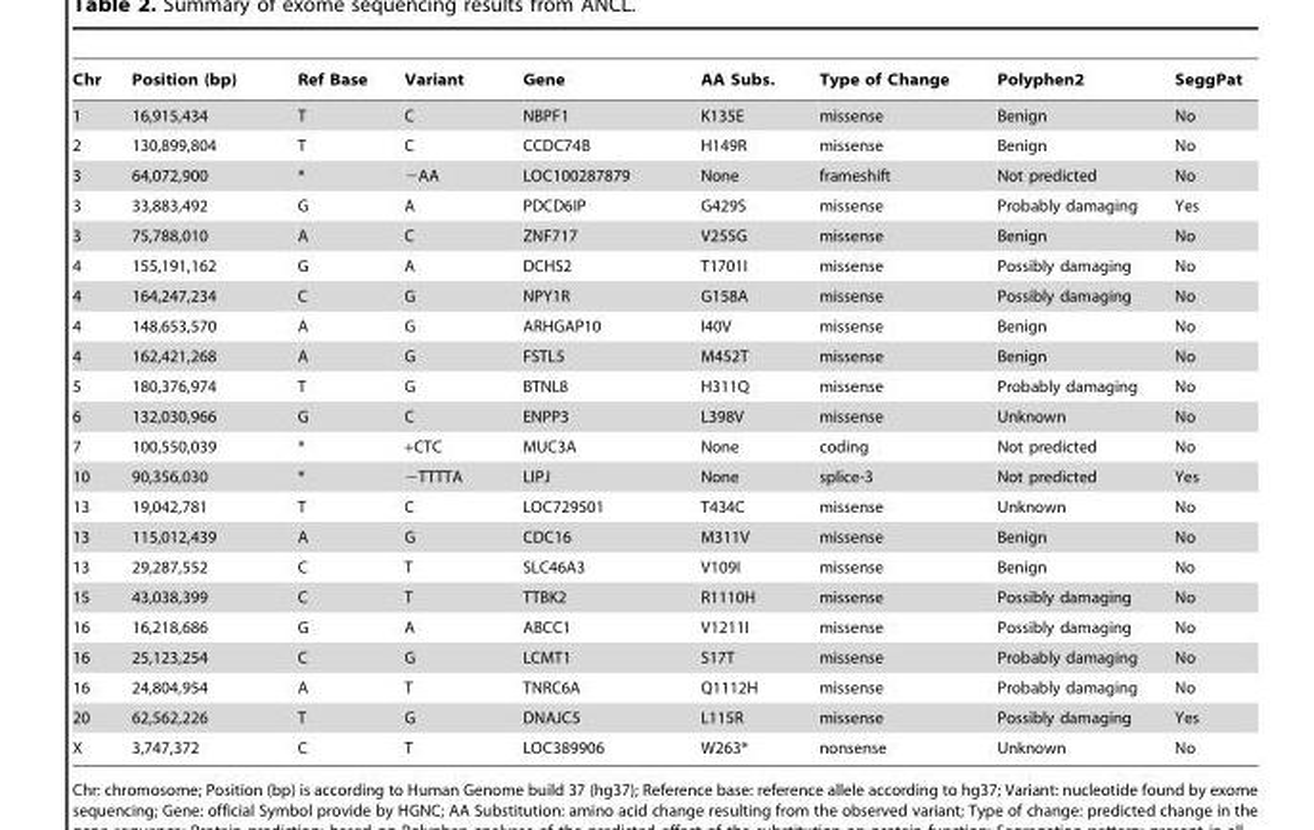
<table><thead><tr><td>Chr</td><td>Position (bp)</td><td>Ref Base</td><td>Variant</td><td>Gene</td><td>AA Subs.</td><td>Type of Change</td><td>Polyphen2</td><td>SeggPat</td></tr></thead><tbody><tr><td>1</td><td>16,915,434</td><td>T</td><td>C</td><td>NBPF1</td><td>K135E</td><td>missense</td><td>Benign</td><td>No</td></tr><tr><td>2</td><td>130,899,804</td><td>T</td><td>C</td><td>CCDC74B</td><td>H149R</td><td>missense</td><td>Benign</td><td>No</td></tr><tr><td>3</td><td>64,072,900</td><td>*</td><td>−AA</td><td>LOC100287879</td><td>None</td><td>frameshift</td><td>Not predicted</td><td>No</td></tr><tr><td>3</td><td>33,883,492</td><td>G</td><td>A</td><td>PDCD6IP</td><td>G429S</td><td>missense</td><td>Probably damaging</td><td>Yes</td></tr><tr><td>3</td><td>75,788,010</td><td>A</td><td>C</td><td>ZNF717</td><td>V255G</td><td>missense</td><td>Benign</td><td>No</td></tr><tr><td>4</td><td>155,191,162</td><td>G</td><td>A</td><td>DCHS2</td><td>T1701I</td><td>missense</td><td>Possibly damaging</td><td>No</td></tr><tr><td>4</td><td>164,247,234</td><td>C</td><td>G</td><td>NPY1R</td><td>G158A</td><td>missense</td><td>Possibly damaging</td><td>No</td></tr><tr><td>4</td><td>148,653,570</td><td>A</td><td>G</td><td>ARHGAP10</td><td>I40V</td><td>missense</td><td>Benign</td><td>No</td></tr><tr><td>4</td><td>162,421,268</td><td>A</td><td>G</td><td>FSTL5</td><td>M452T</td><td>missense</td><td>Benign</td><td>No</td></tr><tr><td>5</td><td>180,376,974</td><td>T</td><td>G</td><td>BTNL8</td><td>H311Q</td><td>missense</td><td>Probably damaging</td><td>No</td></tr><tr><td>6</td><td>132,030,966</td><td>G</td><td>C</td><td>ENPP3</td><td>L398V</td><td>missense</td><td>Unknown</td><td>No</td></tr><tr><td>7</td><td>100,550,039</td><td>*</td><td>+CTC</td><td>MUC3A</td><td>None</td><td>coding</td><td>Not predicted</td><td>No</td></tr><tr><td>10</td><td>90,356,030</td><td>*</td><td>−TTTTA</td><td>LIPJ</td><td>None</td><td>splice-3</td><td>Not predicted</td><td>Yes</td></tr><tr><td>13</td><td>19,042,781</td><td>T</td><td>C</td><td>LOC729501</td><td>T434C</td><td>missense</td><td>Unknown</td><td>No</td></tr><tr><td>13</td><td>115,012,439</td><td>A</td><td>G</td><td>CDC16</td><td>M311V</td><td>missense</td><td>Benign</td><td>No</td></tr><tr><td>13</td><td>29,287,552</td><td>C</td><td>T</td><td>SLC46A3</td><td>V109I</td><td>missense</td><td>Benign</td><td>No</td></tr><tr><td>15</td><td>43,038,399</td><td>C</td><td>T</td><td>TTBK2</td><td>R1110H</td><td>missense</td><td>Possibly damaging</td><td>No</td></tr><tr><td>16</td><td>16,218,686</td><td>G</td><td>A</td><td>ABCC1</td><td>V1211I</td><td>missense</td><td>Possibly damaging</td><td>No</td></tr><tr><td>16</td><td>25,123,254</td><td>C</td><td>G</td><td>LCMT1</td><td>S17T</td><td>missense</td><td>Probably damaging</td><td>No</td></tr><tr><td>16</td><td>24,804,954</td><td>A</td><td>T</td><td>TNRC6A</td><td>Q1112H</td><td>missense</td><td>Probably damaging</td><td>No</td></tr><tr><td>20</td><td>62,562,226</td><td>T</td><td>G</td><td>DNAJC5</td><td>L115R</td><td>missense</td><td>Possibly damaging</td><td>Yes</td></tr><tr><td>X</td><td>3,747,372</td><td>C</td><td>T</td><td>LOC389906</td><td>W263*</td><td>nonsense</td><td>Unknown</td><td>No</td></tr></tbody></table>